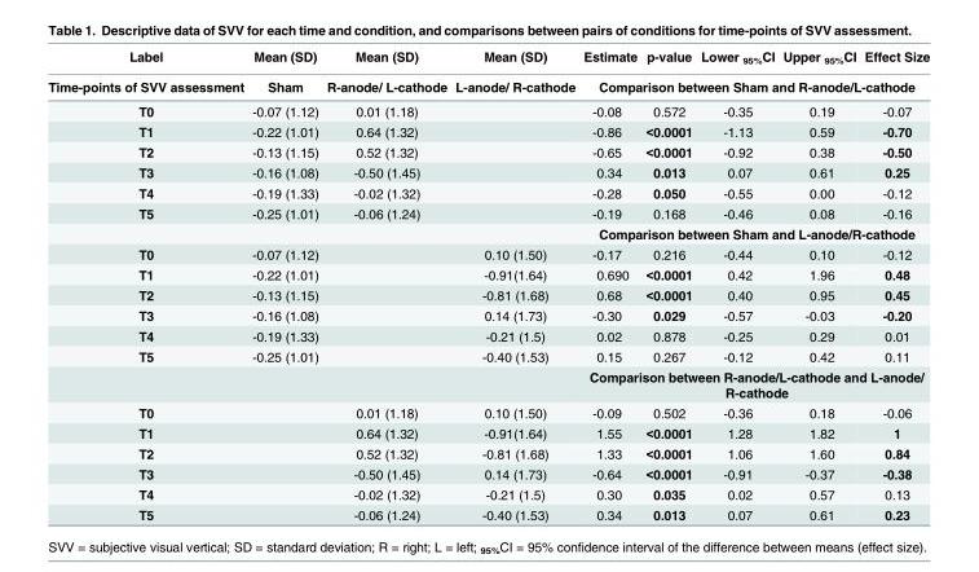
<table><thead><tr><td rowspan="2">Label Time-points of SVV assessment</td><td rowspan="2">Mean (SD) Sham</td><td rowspan="2">Mean (SD) R-anode/ L-cathode</td><td rowspan="2">Mean (SD) L-anode/ R-cathode</td><td>Estimate</td><td>p-value</td><td>Lower <sub>95%</sub>CI</td><td>Upper <sub>95%</sub>CI</td><td>Effect Size</td></tr><tr><td colspan="5">Comparison between Sham and R-anode/L-cathode</td></tr></thead><tbody><tr><td>T0</td><td>-0.07 (1.12)</td><td>0.01 (1.18)</td><td></td><td>-0.08</td><td>0.572</td><td>-0.35</td><td>0.19</td><td>-0.07</td></tr><tr><td>T1</td><td>-0.22 (1.01)</td><td>0.64 (1.32)</td><td></td><td>-0.86</td><td>&lt;0.0001</td><td>-1.13</td><td>0.59</td><td>-0.70</td></tr><tr><td>T2</td><td>-0.13 (1.15)</td><td>0.52 (1.32)</td><td></td><td>-0.65</td><td>&lt;0.0001</td><td>-0.92</td><td>0.38</td><td>-0.50</td></tr><tr><td>T3</td><td>-0.16 (1.08)</td><td>-0.50 (1.45)</td><td></td><td>0.34</td><td>0.013</td><td>0.07</td><td>0.61</td><td>0.25</td></tr><tr><td>T4</td><td>-0.19 (1.33)</td><td>-0.02 (1.32)</td><td></td><td>-0.28</td><td>0.050</td><td>-0.55</td><td>0.00</td><td>-0.12</td></tr><tr><td rowspan="2">T5</td><td>-0.25 (1.01)</td><td>-0.06 (1.24)</td><td></td><td>-0.19</td><td>0.168</td><td>-0.46</td><td>0.08</td><td>-0.16</td></tr><tr><td></td><td></td><td></td><td colspan="5">Comparison between Sham and L-anode/R-cathode</td></tr><tr><td>T0</td><td>-0.07 (1.12)</td><td></td><td>0.10 (1.50)</td><td>-0.17</td><td>0.216</td><td>-0.44</td><td>0.10</td><td>-0.12</td></tr><tr><td>T1</td><td>-0.22 (1.01)</td><td></td><td>-0.91(1.64)</td><td>0.690</td><td>&lt;0.0001</td><td>0.42</td><td>1.96</td><td>0.48</td></tr><tr><td>T2</td><td>-0.13 (1.15)</td><td></td><td>-0.81 (1.68)</td><td>0.68</td><td>&lt;0.0001</td><td>0.40</td><td>0.95</td><td>0.45</td></tr><tr><td>T3</td><td>-0.16 (1.08)</td><td></td><td>0.14 (1.73)</td><td>-0.30</td><td>0.029</td><td>-0.57</td><td>-0.03</td><td>-0.20</td></tr><tr><td>T4</td><td>-0.19 (1.33)</td><td></td><td>-0.21 (1.5)</td><td>0.02</td><td>0.878</td><td>-0.25</td><td>0.29</td><td>0.01</td></tr><tr><td rowspan="2">T5</td><td>-0.25 (1.01)</td><td></td><td>-0.40 (1.53)</td><td>0.15</td><td>0.267</td><td>-0.12</td><td>0.42</td><td>0.11</td></tr><tr><td></td><td></td><td></td><td colspan="5">Comparison between R-anode/L-cathode and L-anode/ R-cathode</td></tr><tr><td>T0</td><td></td><td>0.01 (1.18)</td><td>0.10 (1.50)</td><td>-0.09</td><td>0.502</td><td>-0.36</td><td>0.18</td><td>-0.06</td></tr><tr><td>T1</td><td></td><td>0.64 (1.32)</td><td>-0.91(1.64)</td><td>1.55</td><td>&lt;0.0001</td><td>1.28</td><td>1.82</td><td>1</td></tr><tr><td>T2</td><td></td><td>0.52 (1.32)</td><td>-0.81 (1.68)</td><td>1.33</td><td>&lt;0.0001</td><td>1.06</td><td>1.60</td><td>0.84</td></tr><tr><td>T3</td><td></td><td>-0.50 (1.45)</td><td>0.14 (1.73)</td><td>-0.64</td><td>&lt;0.0001</td><td>-0.91</td><td>-0.37</td><td>-0.38</td></tr><tr><td>T4</td><td></td><td>-0.02 (1.32)</td><td>-0.21 (1.5)</td><td>0.30</td><td>0.035</td><td>0.02</td><td>0.57</td><td>0.13</td></tr><tr><td>T5</td><td></td><td>-0.06 (1.24)</td><td>-0.40 (1.53)</td><td>0.34</td><td>0.013</td><td>0.07</td><td>0.61</td><td>0.23</td></tr></tbody></table>